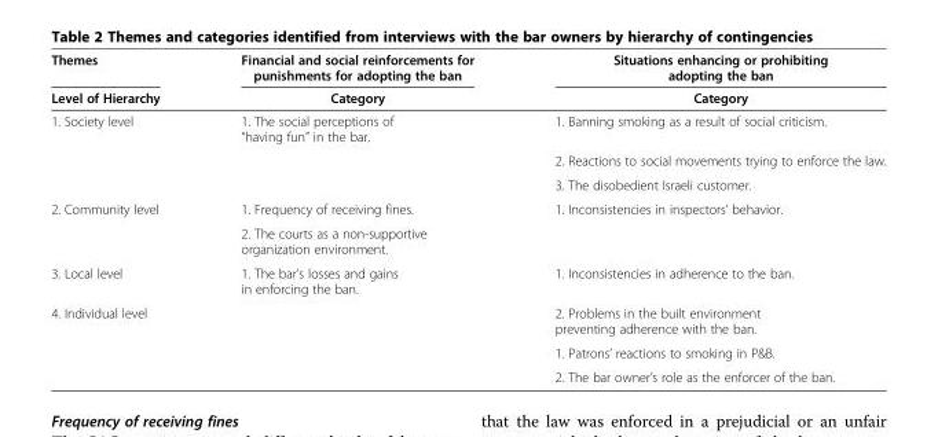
<table><thead><tr><td rowspan="2">Themes Level of Hierarchy</td><td rowspan="2">Financial and social reinforcements for punishments for adopting the ban Category</td><td rowspan="2">Situations enhancing or prohibiting adopting the ban Category</td></tr><tr></tr></thead><tbody><tr><td rowspan="3">1. Society level</td><td>1. The social perceptions of “having fun” in the bar.</td><td>1. Banning smoking as a result of social criticism.</td></tr><tr><td></td><td>2. Reactions to social movements trying to enforce the law.</td></tr><tr><td></td><td>3. The disobedient Israeli customer.</td></tr><tr><td rowspan="2">2. Community level</td><td>1. Frequency of receiving fines.</td><td>1. Inconsistencies in inspectors’ behavior.</td></tr><tr><td>2. The courts as a non-supportive organization environment.</td><td></td></tr><tr><td>3. Local level</td><td>1. The bar’s losses and gains in enforcing the ban.</td><td>1. Inconsistencies in adherence to the ban.</td></tr><tr><td rowspan="3">4. Individual level</td><td></td><td>2. Problems in the built environment preventing adherence with the ban.</td></tr><tr><td></td><td>1. Patrons’ reactions to smoking in P&amp;B.</td></tr><tr><td></td><td>2. The bar owner’s role as the enforcer of the ban.</td></tr></tbody></table>